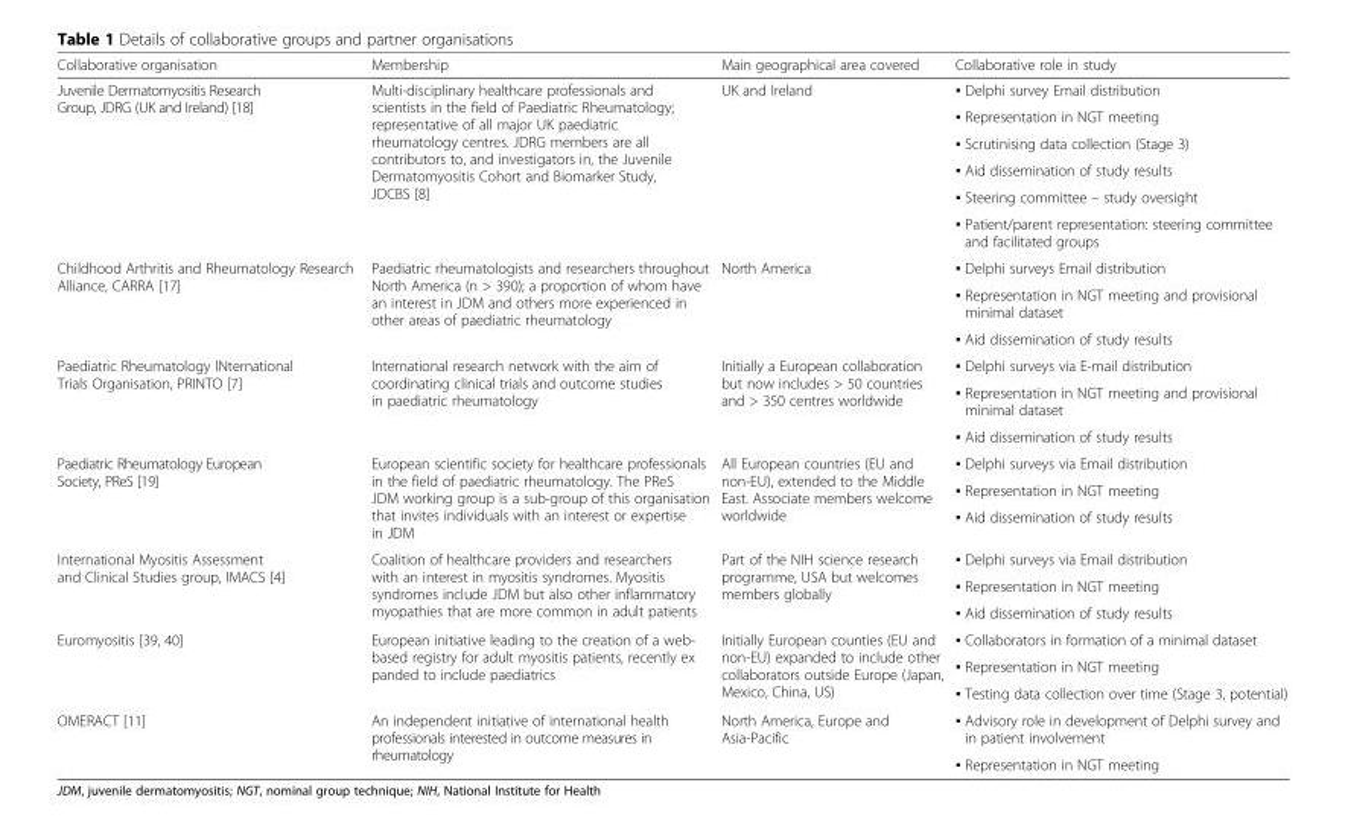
<table><thead><tr><td>Collaborative organisation</td><td>Membership</td><td>Main geographical area covered</td><td>Collaborative role in study</td></tr></thead><tbody><tr><td rowspan="6">Juvenile Dermatomyositis Research Group, JDRG (UK and Ireland) [18]</td><td rowspan="6">Multi-disciplinary healthcare professionals and scientists in the field of Paediatric Rheumatology; representative of all major UK paediatric rheumatology centres. JDRG members are all contributors to, and investigators in, the Juvenile Dermatomyositis Cohort and Biomarker Study, JDCBS [8]</td><td rowspan="6">UK and Ireland</td><td>▪ Delphi survey Email distribution</td></tr><tr><td>▪ Representation in NGT meeting</td></tr><tr><td>▪ Scrutinising data collection (Stage 3)</td></tr><tr><td>▪ Aid dissemination of study results</td></tr><tr><td>▪ Steering committee – study oversight</td></tr><tr><td>▪ Patient/parent representation: steering committee and facilitated groups</td></tr><tr><td rowspan="3">Childhood Arthritis and Rheumatology Research Alliance, CARRA [17]</td><td rowspan="3">Paediatric rheumatologists and researchers throughout North America (n &gt; 390); a proportion of whom have an interest in JDM and others more experienced in other areas of paediatric rheumatology</td><td rowspan="3">North America</td><td>▪ Delphi surveys Email distribution</td></tr><tr><td>▪ Representation in NGT meeting and provisional minimal dataset</td></tr><tr><td>▪ Aid dissemination of study results</td></tr><tr><td rowspan="3">Paediatric Rheumatology INternational Trials Organisation, PRINTO [7]</td><td rowspan="3">International research network with the aim of coordinating clinical trials and outcome studies in paediatric rheumatology</td><td rowspan="3">Initially a European collaboration but now includes &gt; 50 countries and &gt; 350 centres worldwide</td><td>▪ Delphi surveys via E-mail distribution</td></tr><tr><td>▪ Representation in NGT meeting and provisional minimal dataset</td></tr><tr><td>▪ Aid dissemination of study results</td></tr><tr><td rowspan="3">Paediatric Rheumatology European Society, PReS [19]</td><td rowspan="3">European scientific society for healthcare professionals in the field of paediatric rheumatology. The PReS JDM working group is a sub-group of this organisation that invites individuals with an interest or expertise in JDM</td><td rowspan="3">All European countries (EU and non-EU), extended to the Middle East. Associate members welcome worldwide</td><td>▪ Delphi surveys via Email distribution</td></tr><tr><td>▪ Representation in NGT meeting</td></tr><tr><td>▪ Aid dissemination of study results</td></tr><tr><td rowspan="3">International Myositis Assessment and Clinical Studies group, IMACS [4]</td><td rowspan="3">Coalition of healthcare providers and researchers with an interest in myositis syndromes. Myositis syndromes include JDM but also other inflammatory myopathies that are more common in adult patients</td><td rowspan="3">Part of the NIH science research programme, USA but welcomes members globally</td><td>▪ Delphi surveys via Email distribution</td></tr><tr><td>▪ Representation in NGT meeting</td></tr><tr><td>▪ Aid dissemination of study results</td></tr><tr><td rowspan="3">Euromyositis [39, 40]</td><td rowspan="3">European initiative leading to the creation of a web- based registry for adult myositis patients, recently ex panded to include paediatrics</td><td rowspan="3">Initially European counties (EU and non-EU) expanded to include other collaborators outside Europe (Japan, Mexico, China, US)</td><td>▪ Collaborators in formation of a minimal dataset</td></tr><tr><td>▪ Representation in NGT meeting</td></tr><tr><td>▪ Testing data collection over time (Stage 3, potential)</td></tr><tr><td rowspan="2">OMERACT [11]</td><td rowspan="2">An independent initiative of international health professionals interested in outcome measures in rheumatology</td><td rowspan="2">North America, Europe and Asia-Pacific</td><td>▪ Advisory role in development of Delphi survey and in patient involvement</td></tr><tr><td>▪ Representation in NGT meeting</td></tr></tbody></table>